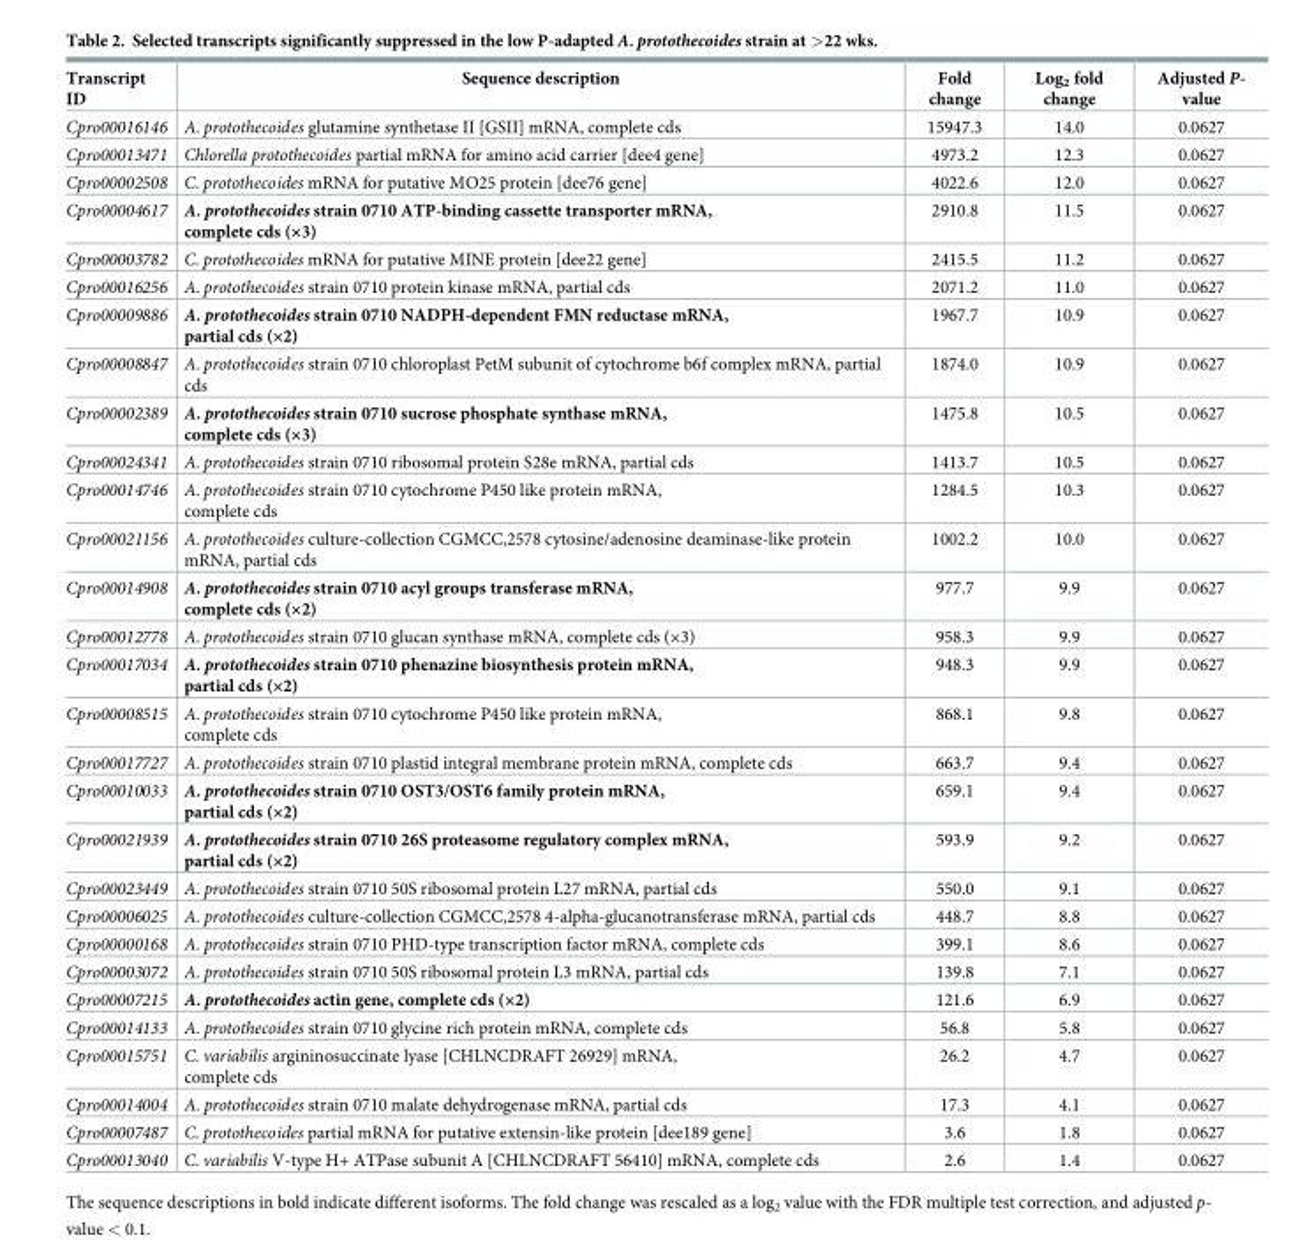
<table><thead><tr><td>Transcript ID</td><td>Sequence description</td><td>Fold change</td><td>Log<sub>2</sub> fold change</td><td>Adjusted P- value</td></tr></thead><tbody><tr><td>Cpro00016146</td><td>A. protothecoides glutamine synthetase II [GSII] mRNA, complete cds</td><td>15947.3</td><td>14.0</td><td>0.0627</td></tr><tr><td>Cpro00013471</td><td>Chlorella protothecoides partial mRNA for amino acid carrier [dee4 gene]</td><td>4973.2</td><td>12.3</td><td>0.0627</td></tr><tr><td>Cpro00002508</td><td>C. protothecoides mRNA for putative MO25 protein [dee76 gene]</td><td>4022.6</td><td>12.0</td><td>0.0627</td></tr><tr><td>Cpro00004617</td><td>A. protothecoides strain 0710 ATP-binding cassette transporter mRNA, complete cds (×3)</td><td>2910.8</td><td>11.5</td><td>0.0627</td></tr><tr><td>Cpro00003782</td><td>C. protothecoides mRNA for putative MINE protein [dee22 gene]</td><td>2415.5</td><td>11.2</td><td>0.0627</td></tr><tr><td>Cpro00016256</td><td>A. protothecoides strain 0710 protein kinase mRNA, partial cds</td><td>2071.2</td><td>11.0</td><td>0.0627</td></tr><tr><td>Cpro00009886</td><td>A. protothecoides strain 0710 NADPH-dependent FMN reductase mRNA, partial cds (×2)</td><td>1967.7</td><td>10.9</td><td>0.0627</td></tr><tr><td>Cpro00008847</td><td>A. protothecoides strain 0710 chloroplast PetM subunit of cytochrome b6f complex mRNA, partial cds</td><td>1874.0</td><td>10.9</td><td>0.0627</td></tr><tr><td>Cpro00002389</td><td>A. protothecoides strain 0710 sucrose phosphate synthase mRNA, complete cds (×3)</td><td>1475.8</td><td>10.5</td><td>0.0627</td></tr><tr><td>Cpro00024341</td><td>A. protothecoides strain 0710 ribosomal protein S28e mRNA, partial cds</td><td>1413.7</td><td>10.5</td><td>0.0627</td></tr><tr><td>Cpro00014746</td><td>A. protothecoides strain 0710 cytochrome P450 like protein mRNA, complete cds</td><td>1284.5</td><td>10.3</td><td>0.0627</td></tr><tr><td>Cpro00021156</td><td>A. protothecoides culture-collection CGMCC,2578 cytosine/adenosine deaminase-like protein mRNA, partial cds</td><td>1002.2</td><td>10.0</td><td>0.0627</td></tr><tr><td>Cpro00014908</td><td>A. protothecoides strain 0710 acyl groups transferase mRNA, complete cds (×2)</td><td>977.7</td><td>9.9</td><td>0.0627</td></tr><tr><td>Cpro00012778</td><td>A. protothecoides strain 0710 glucan synthase mRNA, complete cds (×3)</td><td>958.3</td><td>9.9</td><td>0.0627</td></tr><tr><td>Cpro00017034</td><td>A. protothecoides strain 0710 phenazine biosynthesis protein mRNA, partial cds (×2)</td><td>948.3</td><td>9.9</td><td>0.0627</td></tr><tr><td>Cpro00008515</td><td>A. protothecoides strain 0710 cytochrome P450 like protein mRNA, complete cds</td><td>868.1</td><td>9.8</td><td>0.0627</td></tr><tr><td>Cpro00017727</td><td>A. protothecoides strain 0710 plastid integral membrane protein mRNA, complete cds</td><td>663.7</td><td>9.4</td><td>0.0627</td></tr><tr><td>Cpro00010033</td><td>A. protothecoides strain 0710 OST3/OST6 family protein mRNA, partial cds (×2)</td><td>659.1</td><td>9.4</td><td>0.0627</td></tr><tr><td>Cpro00021939</td><td>A. protothecoides strain 0710 26S proteasome regulatory complex mRNA, partial cds (×2)</td><td>593.9</td><td>9.2</td><td>0.0627</td></tr><tr><td>Cpro00023449</td><td>A. protothecoides strain 0710 50S ribosomal protein L27 mRNA, partial cds</td><td>550.0</td><td>9.1</td><td>0.0627</td></tr><tr><td>Cpro00006025</td><td>A. protothecoides culture-collection CGMCC,2578 4-alpha-glucanotransferase mRNA, partial cds</td><td>448.7</td><td>8.8</td><td>0.0627</td></tr><tr><td>Cpro00000168</td><td>A. protothecoides strain 0710 PHD-type transcription factor mRNA, complete cds</td><td>399.1</td><td>8.6</td><td>0.0627</td></tr><tr><td>Cpro00003072</td><td>A. protothecoides strain 0710 50S ribosomal protein L3 mRNA, partial cds</td><td>139.8</td><td>7.1</td><td>0.0627</td></tr><tr><td>Cpro00007215</td><td>A. protothecoides actin gene, complete cds (×2)</td><td>121.6</td><td>6.9</td><td>0.0627</td></tr><tr><td>Cpro00014133</td><td>A. protothecoides strain 0710 glycine rich protein mRNA, complete cds</td><td>56.8</td><td>5.8</td><td>0.0627</td></tr><tr><td>Cpro00015751</td><td>C. variabilis argininosuccinate lyase [CHLNCDRAFT 26929] mRNA, complete cds</td><td>26.2</td><td>4.7</td><td>0.0627</td></tr><tr><td>Cpro00014004</td><td>A. protothecoides strain 0710 malate dehydrogenase mRNA, partial cds</td><td>17.3</td><td>4.1</td><td>0.0627</td></tr><tr><td>Cpro00007487</td><td>C. protothecoides partial mRNA for putative extensin-like protein [dee189 gene]</td><td>3.6</td><td>1.8</td><td>0.0627</td></tr><tr><td>Cpro00013040</td><td>C. variabilis V-type H+ ATPase subunit A [CHLNCDRAFT 56410] mRNA, complete cds</td><td>2.6</td><td>1.4</td><td>0.0627</td></tr></tbody></table>